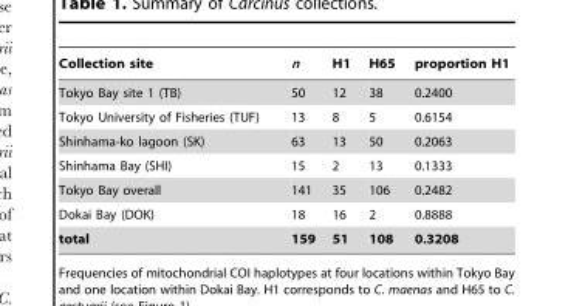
<table><thead><tr><td>Collection site</td><td>n</td><td>H1</td><td>H65</td><td>proportion H1</td></tr></thead><tbody><tr><td>Tokyo Bay site 1 (TB)</td><td>50</td><td>12</td><td>38</td><td>0.2400</td></tr><tr><td>Tokyo University of Fisheries (TUF)</td><td>13</td><td>8</td><td>5</td><td>0.6154</td></tr><tr><td>Shinhama-ko lagoon (SK)</td><td>63</td><td>13</td><td>50</td><td>0.2063</td></tr><tr><td>Shinhama Bay (SHI)</td><td>15</td><td>2</td><td>13</td><td>0.1333</td></tr><tr><td>Tokyo Bay overall</td><td>141</td><td>35</td><td>106</td><td>0.2482</td></tr><tr><td>Dokai Bay (DOK)</td><td>18</td><td>16</td><td>2</td><td>0.8888</td></tr><tr><td>total</td><td>159</td><td>51</td><td>108</td><td>0.3208</td></tr></tbody></table>